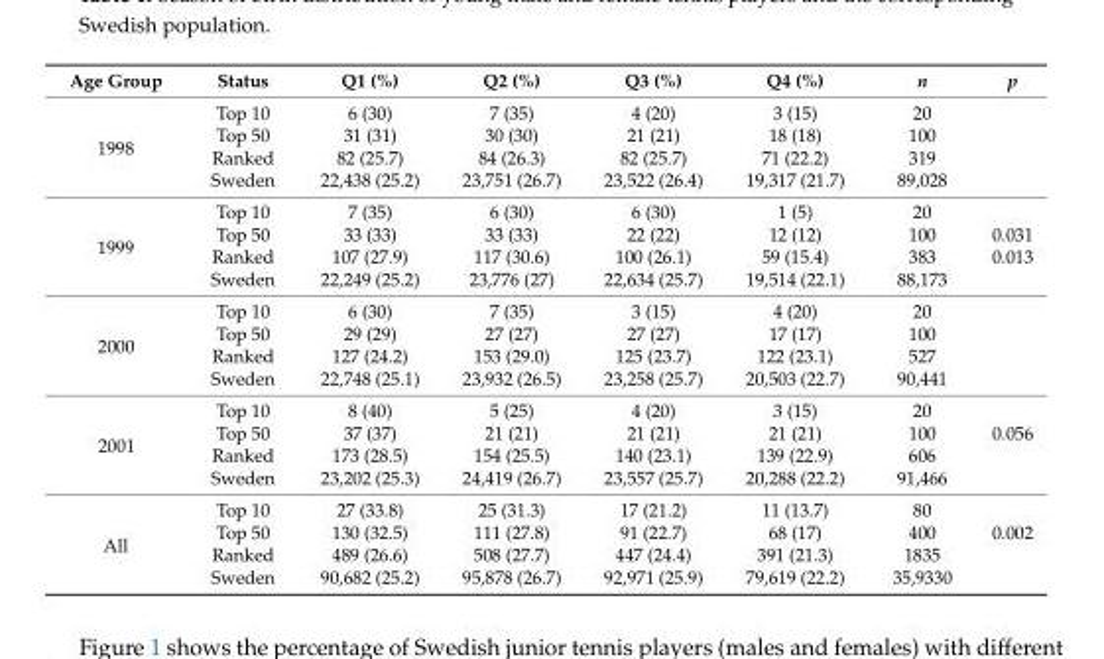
<table><thead><tr><td>Age Group</td><td>Status</td><td>Q1 (%)</td><td>Q2 (%)</td><td>Q3 (%)</td><td>Q4 (%)</td><td>n</td><td>p</td></tr></thead><tbody><tr><td rowspan="4">1998</td><td>Top 10</td><td>6 (30)</td><td>7 (35)</td><td>4 (20)</td><td>3 (15)</td><td>20</td><td></td></tr><tr><td>Top 50</td><td>31 (31)</td><td>30 (30)</td><td>21 (21)</td><td>18 (18)</td><td>100</td><td></td></tr><tr><td>Ranked</td><td>82 (25.7)</td><td>84 (26.3)</td><td>82 (25.7)</td><td>71 (22.2)</td><td>319</td><td></td></tr><tr><td>Sweden</td><td>22,438 (25.2)</td><td>23,751 (26.7)</td><td>23,522 (26.4)</td><td>19,317 (21.7)</td><td>89,028</td><td></td></tr><tr><td rowspan="4">1999</td><td>Top 10</td><td>7 (35)</td><td>6 (30)</td><td>6 (30)</td><td>1 (5)</td><td>20</td><td></td></tr><tr><td>Top 50</td><td>33 (33)</td><td>33 (33)</td><td>22 (22)</td><td>12 (12)</td><td>100</td><td>0.031</td></tr><tr><td>Ranked</td><td>107 (27.9)</td><td>117 (30.6)</td><td>100 (26.1)</td><td>59 (15.4)</td><td>383</td><td>0.013</td></tr><tr><td>Sweden</td><td>22,249 (25.2)</td><td>23,776 (27)</td><td>22,634 (25.7)</td><td>19,514 (22.1)</td><td>88,173</td><td></td></tr><tr><td rowspan="4">2000</td><td>Top 10</td><td>6 (30)</td><td>7 (35)</td><td>3 (15)</td><td>4 (20)</td><td>20</td><td></td></tr><tr><td>Top 50</td><td>29 (29)</td><td>27 (27)</td><td>27 (27)</td><td>17 (17)</td><td>100</td><td></td></tr><tr><td>Ranked</td><td>127 (24.2)</td><td>153 (29.0)</td><td>125 (23.7)</td><td>122 (23.1)</td><td>527</td><td></td></tr><tr><td>Sweden</td><td>22,748 (25.1)</td><td>23,932 (26.5)</td><td>23,258 (25.7)</td><td>20,503 (22.7)</td><td>90,441</td><td></td></tr><tr><td rowspan="4">2001</td><td>Top 10</td><td>8 (40)</td><td>5 (25)</td><td>4 (20)</td><td>3 (15)</td><td>20</td><td></td></tr><tr><td>Top 50</td><td>37 (37)</td><td>21 (21)</td><td>21 (21)</td><td>21 (21)</td><td>100</td><td>0.056</td></tr><tr><td>Ranked</td><td>173 (28.5)</td><td>154 (25.5)</td><td>140 (23.1)</td><td>139 (22.9)</td><td>606</td><td></td></tr><tr><td>Sweden</td><td>23,202 (25.3)</td><td>24,419 (26.7)</td><td>23,557 (25.7)</td><td>20,288 (22.2)</td><td>91,466</td><td></td></tr><tr><td rowspan="4">All</td><td>Top 10</td><td>27 (33.8)</td><td>25 (31.3)</td><td>17 (21.2)</td><td>11 (13.7)</td><td>80</td><td></td></tr><tr><td>Top 50</td><td>130 (32.5)</td><td>111 (27.8)</td><td>91 (22.7)</td><td>68 (17)</td><td>400</td><td>0.002</td></tr><tr><td>Ranked</td><td>489 (26.6)</td><td>508 (27.7)</td><td>447 (24.4)</td><td>391 (21.3)</td><td>1835</td><td></td></tr><tr><td>Sweden</td><td>90,682 (25.2)</td><td>95,878 (26.7)</td><td>92,971 (25.9)</td><td>79,619 (22.2)</td><td>35,9330</td><td></td></tr></tbody></table>